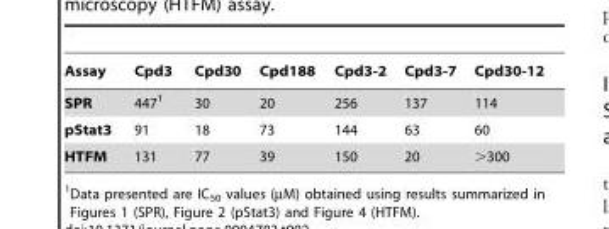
<table><thead><tr><td>Assay</td><td>Cpd3</td><td>Cpd30</td><td>Cpd188</td><td>Cpd3-2</td><td>Cpd3-7</td><td>Cpd30-12</td></tr></thead><tbody><tr><td>SPR</td><td>447<sup>1</sup></td><td>30</td><td>20</td><td>256</td><td>137</td><td>114</td></tr><tr><td>pStat3</td><td>91</td><td>18</td><td>73</td><td>144</td><td>63</td><td>60</td></tr><tr><td>HTFM</td><td>131</td><td>77</td><td>39</td><td>150</td><td>20</td><td>&gt;300</td></tr></tbody></table>